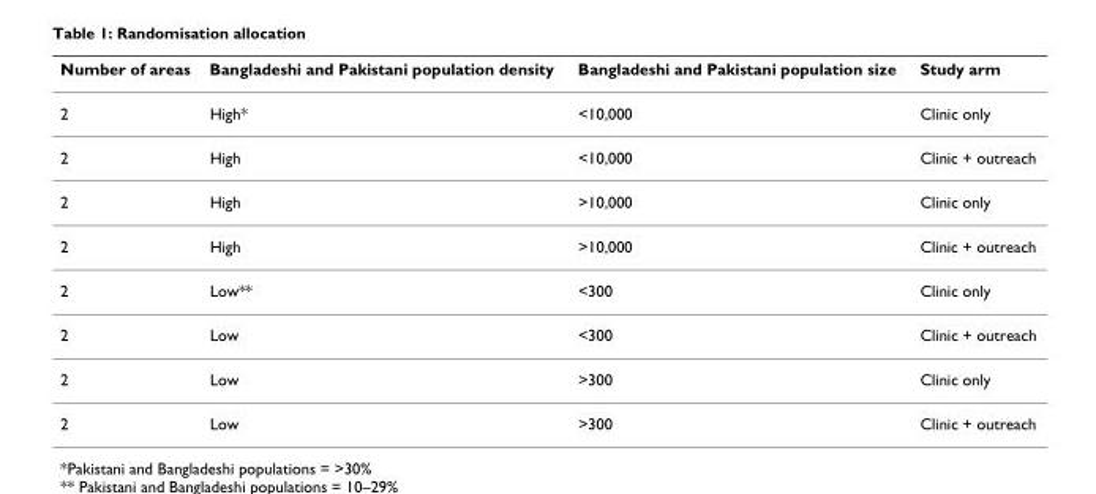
<table><thead><tr><td>Number of areas</td><td>Bangladeshi and Pakistani population density</td><td>Bangladeshi and Pakistani population size</td><td>Study arm</td></tr></thead><tbody><tr><td>2</td><td>High*</td><td>&lt;10,000</td><td>Clinic only</td></tr><tr><td>2</td><td>High</td><td>&lt;10,000</td><td>Clinic + outreach</td></tr><tr><td>2</td><td>High</td><td>&gt;10,000</td><td>Clinic only</td></tr><tr><td>2</td><td>High</td><td>&gt;10,000</td><td>Clinic + outreach</td></tr><tr><td>2</td><td>Low**</td><td>&lt;300</td><td>Clinic only</td></tr><tr><td>2</td><td>Low</td><td>&lt;300</td><td>Clinic + outreach</td></tr><tr><td>2</td><td>Low</td><td>&gt;300</td><td>Clinic only</td></tr><tr><td>2</td><td>Low</td><td>&gt;300</td><td>Clinic + outreach</td></tr></tbody></table>